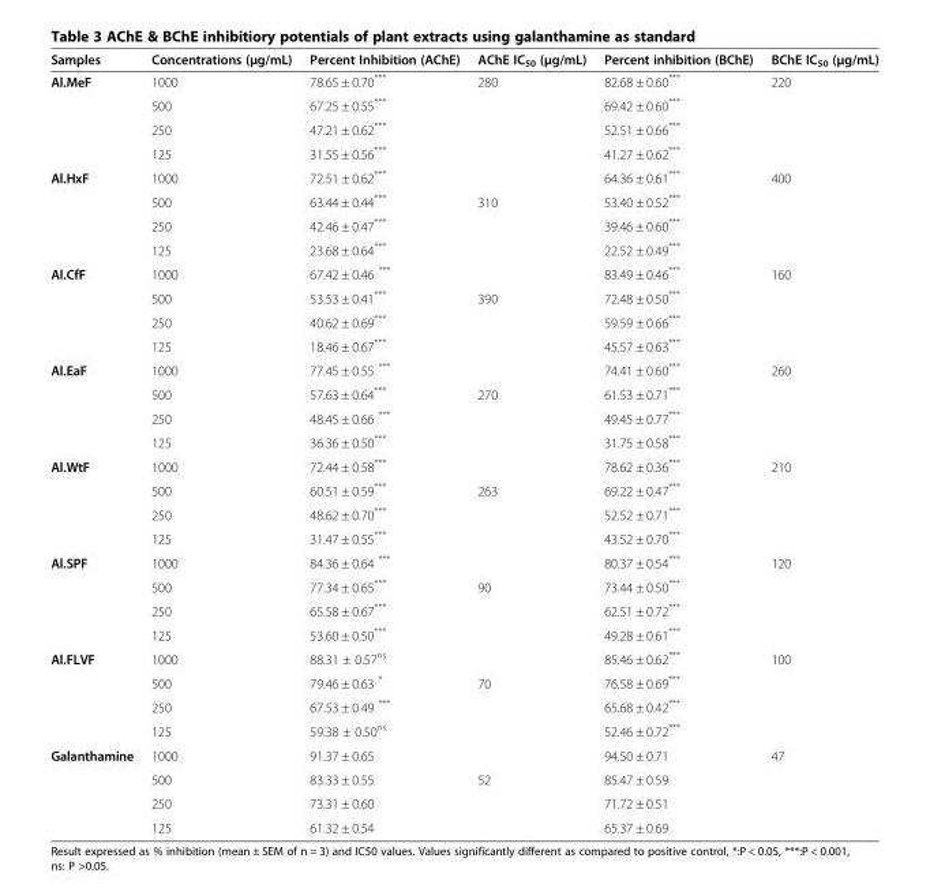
<table><thead><tr><td>Samples</td><td>Concentrations (μg/mL)</td><td>Percent Inhibition (AChE)</td><td>AChE IC<sub>50</sub> (μg/mL)</td><td>Percent inhibition (BChE)</td><td>BChE IC<sub>50</sub> (μg/mL)</td></tr></thead><tbody><tr><td rowspan="4">Al.MeF</td><td>1000</td><td>78.65 ± 0.70***</td><td>280</td><td>82.68 ± 0.60***</td><td rowspan="4">220</td></tr><tr><td>500</td><td>67.25 ± 0.55***</td><td></td><td>69.42 ± 0.60***</td></tr><tr><td>250</td><td>47.21 ± 0.62***</td><td></td><td>52.51 ± 0.66***</td></tr><tr><td>125</td><td>31.55 ± 0.56***</td><td></td><td>41.27 ± 0.62***</td></tr><tr><td rowspan="4">Al.HxF</td><td>1000</td><td>72.51 ± 0.62***</td><td></td><td>64.36 ± 0.61***</td><td rowspan="4">400</td></tr><tr><td>500</td><td>63.44 ± 0.44***</td><td>310</td><td>53.40 ± 0.52***</td></tr><tr><td>250</td><td>42.46 ± 0.47***</td><td></td><td>39.46 ± 0.60***</td></tr><tr><td>125</td><td>23.68 ± 0.64***</td><td></td><td>22.52 ± 0.49***</td></tr><tr><td rowspan="4">Al.CfF</td><td>1000</td><td>67.42 ± 0.46 ***</td><td></td><td>83.49 ± 0.46***</td><td rowspan="4">160</td></tr><tr><td>500</td><td>53.53 ± 0.41***</td><td>390</td><td>72.48 ± 0.50***</td></tr><tr><td>250</td><td>40.62 ± 0.69***</td><td></td><td>59.59 ± 0.66***</td></tr><tr><td>125</td><td>18.46 ± 0.67***</td><td></td><td>45.57 ± 0.63***</td></tr><tr><td rowspan="4">Al.EaF</td><td>1000</td><td>77.45 ± 0.55 ***</td><td></td><td>74.41 ± 0.60***</td><td rowspan="4">260</td></tr><tr><td>500</td><td>57.63 ± 0.64***</td><td>270</td><td>61.53 ± 0.71***</td></tr><tr><td>250</td><td>48.45 ± 0.66 ***</td><td></td><td>49.45 ± 0.77***</td></tr><tr><td>125</td><td>36.36 ± 0.50***</td><td></td><td>31.75 ± 0.58***</td></tr><tr><td rowspan="4">Al.WtF</td><td>1000</td><td>72.44 ± 0.58***</td><td></td><td>78.62 ± 0.36***</td><td rowspan="4">210</td></tr><tr><td>500</td><td>60.51 ± 0.59***</td><td>263</td><td>69.22 ± 0.47***</td></tr><tr><td>250</td><td>48.62 ± 0.70***</td><td></td><td>52.52 ± 0.71***</td></tr><tr><td>125</td><td>31.47 ± 0.55***</td><td></td><td>43.52 ± 0.70***</td></tr><tr><td rowspan="4">Al.SPF</td><td>1000</td><td>84.36 ± 0.64 ***</td><td></td><td>80.37 ± 0.54***</td><td rowspan="4">120</td></tr><tr><td>500</td><td>77.34 ± 0.65***</td><td>90</td><td>73.44 ± 0.50***</td></tr><tr><td>250</td><td>65.58 ± 0.67***</td><td></td><td>62.51 ± 0.72***</td></tr><tr><td>125</td><td>53.60 ± 0.50***</td><td></td><td>49.28 ± 0.61***</td></tr><tr><td rowspan="4">Al.FLVF</td><td>1000</td><td>88.31 ± 0.57<sup>ns</sup></td><td></td><td>85.46 ± 0.62***</td><td rowspan="4">100</td></tr><tr><td>500</td><td>79.46 ± 0.63 *</td><td>70</td><td>76.58 ± 0.69***</td></tr><tr><td>250</td><td>67.53 ± 0.49 ***</td><td></td><td>65.68 ± 0.42***</td></tr><tr><td>125</td><td>59.38 ± 0.50<sup>ns</sup></td><td></td><td>52.46 ± 0.72***</td></tr><tr><td rowspan="4">Galanthamine</td><td>1000</td><td>91.37 ± 0.65</td><td></td><td>94.50 ± 0.71</td><td rowspan="4">47</td></tr><tr><td>500</td><td>83.33 ± 0.55</td><td>52</td><td>85.47 ± 0.59</td></tr><tr><td>250</td><td>73.31 ± 0.60</td><td></td><td>71.72 ± 0.51</td></tr><tr><td>125</td><td>61.32 ± 0.54</td><td></td><td>65.37 ± 0.69</td></tr></tbody></table>